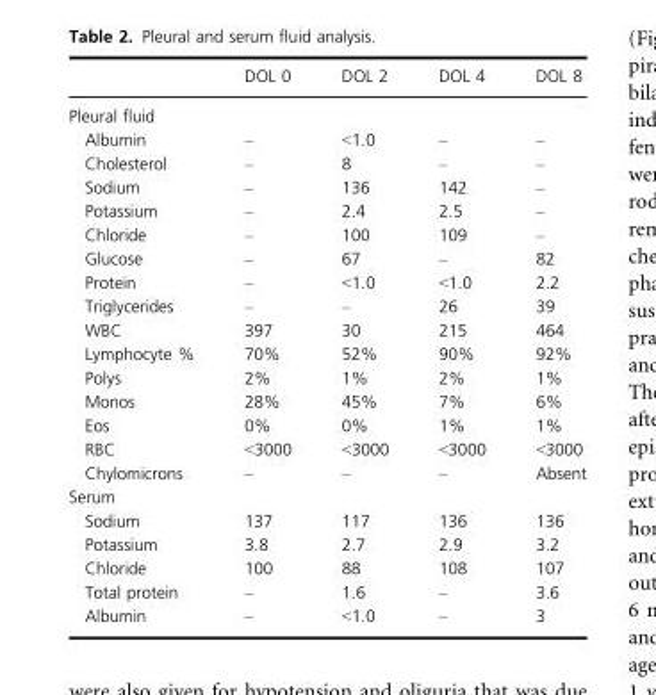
<table><thead><tr><td></td><td>DOL 0</td><td>DOL 2</td><td>DOL 4</td><td>DOL 8</td></tr></thead><tbody><tr><td colspan="5">Pleural fluid</td></tr><tr><td>Albumin</td><td>–</td><td>&lt;1.0</td><td>–</td><td>–</td></tr><tr><td>Cholesterol</td><td>–</td><td>8</td><td>–</td><td>–</td></tr><tr><td>Sodium</td><td>–</td><td>136</td><td>142</td><td>–</td></tr><tr><td>Potassium</td><td>–</td><td>2.4</td><td>2.5</td><td>–</td></tr><tr><td>Chloride</td><td>–</td><td>100</td><td>109</td><td>–</td></tr><tr><td>Glucose</td><td>–</td><td>67</td><td>–</td><td>82</td></tr><tr><td>Protein</td><td>–</td><td>&lt;1.0</td><td>&lt;1.0</td><td>2.2</td></tr><tr><td>Triglycerides</td><td>–</td><td>–</td><td>26</td><td>39</td></tr><tr><td>WBC</td><td>397</td><td>30</td><td>215</td><td>464</td></tr><tr><td>Lymphocyte %</td><td>70%</td><td>52%</td><td>90%</td><td>92%</td></tr><tr><td>Polys</td><td>2%</td><td>1%</td><td>2%</td><td>1%</td></tr><tr><td>Monos</td><td>28%</td><td>45%</td><td>7%</td><td>6%</td></tr><tr><td>Eos</td><td>0%</td><td>0%</td><td>1%</td><td>1%</td></tr><tr><td>RBC</td><td>&lt;3000</td><td>&lt;3000</td><td>&lt;3000</td><td>&lt;3000</td></tr><tr><td>Chylomicrons</td><td>–</td><td>–</td><td>–</td><td>Absent</td></tr><tr><td colspan="5">Serum</td></tr><tr><td>Sodium</td><td>137</td><td>117</td><td>136</td><td>136</td></tr><tr><td>Potassium</td><td>3.8</td><td>2.7</td><td>2.9</td><td>3.2</td></tr><tr><td>Chloride</td><td>100</td><td>88</td><td>108</td><td>107</td></tr><tr><td>Total protein</td><td>–</td><td>1.6</td><td>–</td><td>3.6</td></tr><tr><td>Albumin</td><td>–</td><td>&lt;1.0</td><td>–</td><td>3</td></tr></tbody></table>